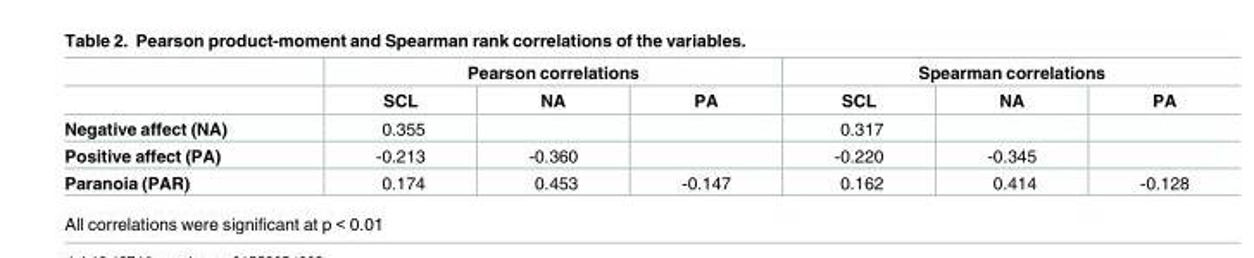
<table><thead><tr><td rowspan="2"></td><td colspan="3">Pearson correlations</td><td colspan="3">Spearman correlations</td></tr><tr><td>SCL</td><td>NA</td><td>PA</td><td>SCL</td><td>NA</td><td>PA</td></tr></thead><tbody><tr><td>Negative affect (NA)</td><td>0.355</td><td></td><td></td><td>0.317</td><td></td><td></td></tr><tr><td>Positive affect (PA)</td><td>-0.213</td><td>-0.360</td><td></td><td>-0.220</td><td>-0.345</td><td></td></tr><tr><td>Paranoia (PAR)</td><td>0.174</td><td>0.453</td><td>-0.147</td><td>0.162</td><td>0.414</td><td>-0.128</td></tr></tbody></table>